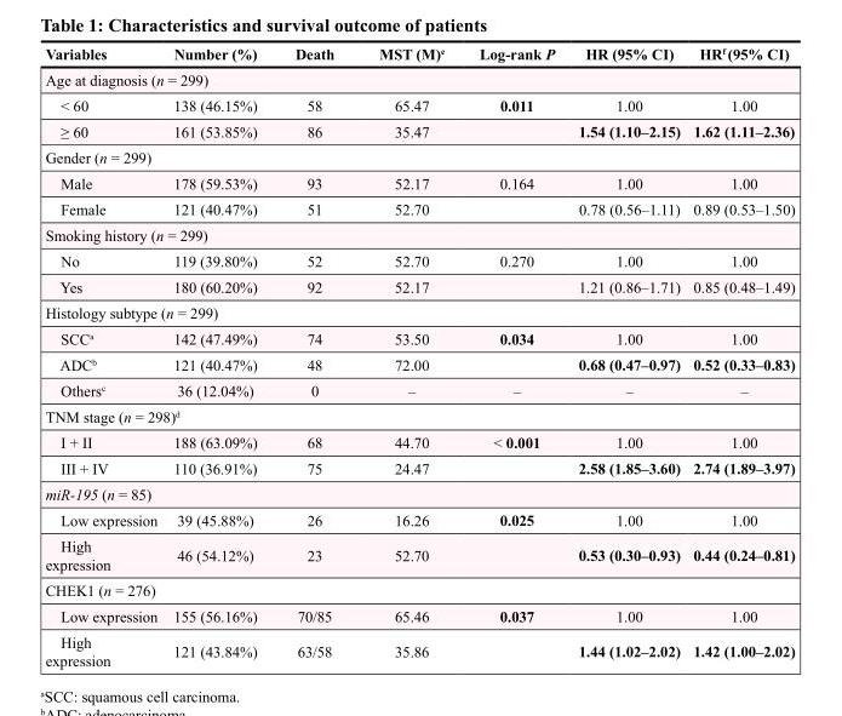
<table><thead><tr><td>Variables</td><td>Number (%)</td><td>Death</td><td>MST (M)<sup>e</sup></td><td>Log-rank P</td><td>HR (95% CI)</td><td>HR<sup>f</sup> (95% CI)</td></tr></thead><tbody><tr><td colspan="7">Age at diagnosis (n = 299)</td></tr><tr><td>&lt; 60</td><td>138 (46.15%)</td><td>58</td><td>65.47</td><td>0.011</td><td>1.00</td><td>1.00</td></tr><tr><td>≥ 60</td><td>161 (53.85%)</td><td>86</td><td>35.47</td><td></td><td>1.54 (1.10–2.15)</td><td>1.62 (1.11–2.36)</td></tr><tr><td colspan="7">Gender (n = 299)</td></tr><tr><td>Male</td><td>178 (59.53%)</td><td>93</td><td>52.17</td><td>0.164</td><td>1.00</td><td>1.00</td></tr><tr><td>Female</td><td>121 (40.47%)</td><td>51</td><td>52.70</td><td></td><td>0.78 (0.56–1.11)</td><td>0.89 (0.53–1.50)</td></tr><tr><td colspan="7">Smoking history (n = 299)</td></tr><tr><td>No</td><td>119 (39.80%)</td><td>52</td><td>52.70</td><td>0.270</td><td>1.00</td><td>1.00</td></tr><tr><td>Yes</td><td>180 (60.20%)</td><td>92</td><td>52.17</td><td></td><td>1.21 (0.86–1.71)</td><td>0.85 (0.48–1.49)</td></tr><tr><td colspan="7">Histology subtype (n = 299)</td></tr><tr><td>SCC<sup>a</sup></td><td>142 (47.49%)</td><td>74</td><td>53.50</td><td>0.034</td><td>1.00</td><td>1.00</td></tr><tr><td>ADC<sup>b</sup></td><td>121 (40.47%)</td><td>48</td><td>72.00</td><td></td><td>0.68 (0.47–0.97)</td><td>0.52 (0.33–0.83)</td></tr><tr><td>Others<sup>c</sup></td><td>36 (12.04%)</td><td>0</td><td>–</td><td>–</td><td>–</td><td>–</td></tr><tr><td colspan="7">TNM stage (n = 298)<sup>d</sup></td></tr><tr><td>I + II</td><td>188 (63.09%)</td><td>68</td><td>44.70</td><td>&lt; 0.001</td><td>1.00</td><td>1.00</td></tr><tr><td>III + IV</td><td>110 (36.91%)</td><td>75</td><td>24.47</td><td></td><td>2.58 (1.85–3.60)</td><td>2.74 (1.89–3.97)</td></tr><tr><td colspan="7">miR-195 (n = 85)</td></tr><tr><td>Low expression</td><td>39 (45.88%)</td><td>26</td><td>16.26</td><td>0.025</td><td>1.00</td><td>1.00</td></tr><tr><td>High expression</td><td>46 (54.12%)</td><td>23</td><td>52.70</td><td></td><td>0.53 (0.30–0.93)</td><td>0.44 (0.24–0.81)</td></tr><tr><td colspan="7">CHEK1 (n = 276)</td></tr><tr><td>Low expression</td><td>155 (56.16%)</td><td>70/85</td><td>65.46</td><td>0.037</td><td>1.00</td><td>1.00</td></tr><tr><td>High expression</td><td>121 (43.84%)</td><td>63/58</td><td>35.86</td><td></td><td>1.44 (1.02–2.02)</td><td>1.42 (1.00–2.02)</td></tr></tbody></table>